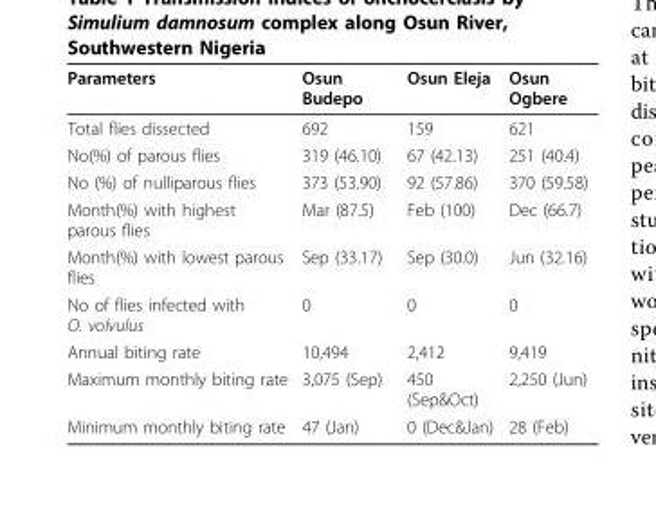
<table><thead><tr><td>Parameters</td><td>Osun Budepo</td><td>Osun Eleja</td><td>Osun Ogbere</td></tr></thead><tbody><tr><td>Total flies dissected</td><td>692</td><td>159</td><td>621</td></tr><tr><td>No(%) of parous flies</td><td>319 (46.10)</td><td>67 (42.13)</td><td>251 (40.4)</td></tr><tr><td>No (%) of nulliparous flies</td><td>373 (53.90)</td><td>92 (57.86)</td><td>370 (59.58)</td></tr><tr><td>Month(%) with highest parous flies</td><td>Mar (87.5)</td><td>Feb (100)</td><td>Dec (66.7)</td></tr><tr><td>Month(%) with lowest parous flies</td><td>Sep (33.17)</td><td>Sep (30.0)</td><td>Jun (32.16)</td></tr><tr><td>No of flies infected with O. volvulus</td><td>0</td><td>0</td><td>0</td></tr><tr><td>Annual biting rate</td><td>10,494</td><td>2,412</td><td>9,419</td></tr><tr><td>Maximum monthly biting rate</td><td>3,075 (Sep)</td><td>450 (Sep&amp;Oct)</td><td>2,250 (Jun)</td></tr><tr><td>Minimum monthly biting rate</td><td>47 (Jan)</td><td>0 (Dec&amp;Jan)</td><td>28 (Feb)</td></tr></tbody></table>